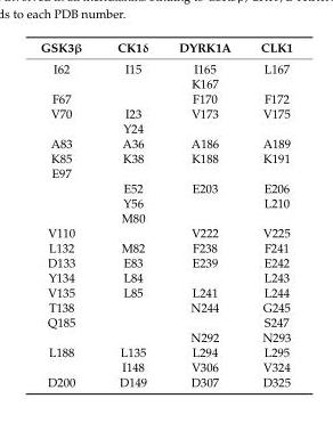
<table><thead><tr><td>GSK3β</td><td>CK1δ</td><td>DYRK1A</td><td>CLK1</td></tr></thead><tbody><tr><td rowspan="2">I62</td><td>I15</td><td>I165</td><td>L167</td></tr><tr><td></td><td>K167</td><td></td></tr><tr><td>F67</td><td></td><td>F170</td><td>F172</td></tr><tr><td rowspan="2">V70</td><td>I23</td><td>V173</td><td>V175</td></tr><tr><td>Y24</td><td></td><td></td></tr><tr><td>A83</td><td>A36</td><td>A186</td><td>A189</td></tr><tr><td>K85</td><td>K38</td><td>K188</td><td>K191</td></tr><tr><td colspan="4">E97</td></tr><tr><td></td><td>E52</td><td>E203</td><td>E206</td></tr><tr><td></td><td>Y56</td><td></td><td>L210</td></tr><tr><td></td><td>M80</td><td></td><td></td></tr><tr><td>V110</td><td></td><td>V222</td><td>V225</td></tr><tr><td>L132</td><td>M82</td><td>F238</td><td>F241</td></tr><tr><td>D133</td><td>E83</td><td>E239</td><td>E242</td></tr><tr><td>Y134</td><td>L84</td><td></td><td>L243</td></tr><tr><td>V135</td><td>L85</td><td>L241</td><td>L244</td></tr><tr><td>T138</td><td></td><td>N244</td><td>G245</td></tr><tr><td rowspan="2">Q185</td><td></td><td></td><td>S247</td></tr><tr><td></td><td>N292</td><td>N293</td></tr><tr><td rowspan="2">L188</td><td>L135</td><td>L294</td><td>L295</td></tr><tr><td>I148</td><td>V306</td><td>V324</td></tr><tr><td>D200</td><td>D149</td><td>D307</td><td>D325</td></tr></tbody></table>